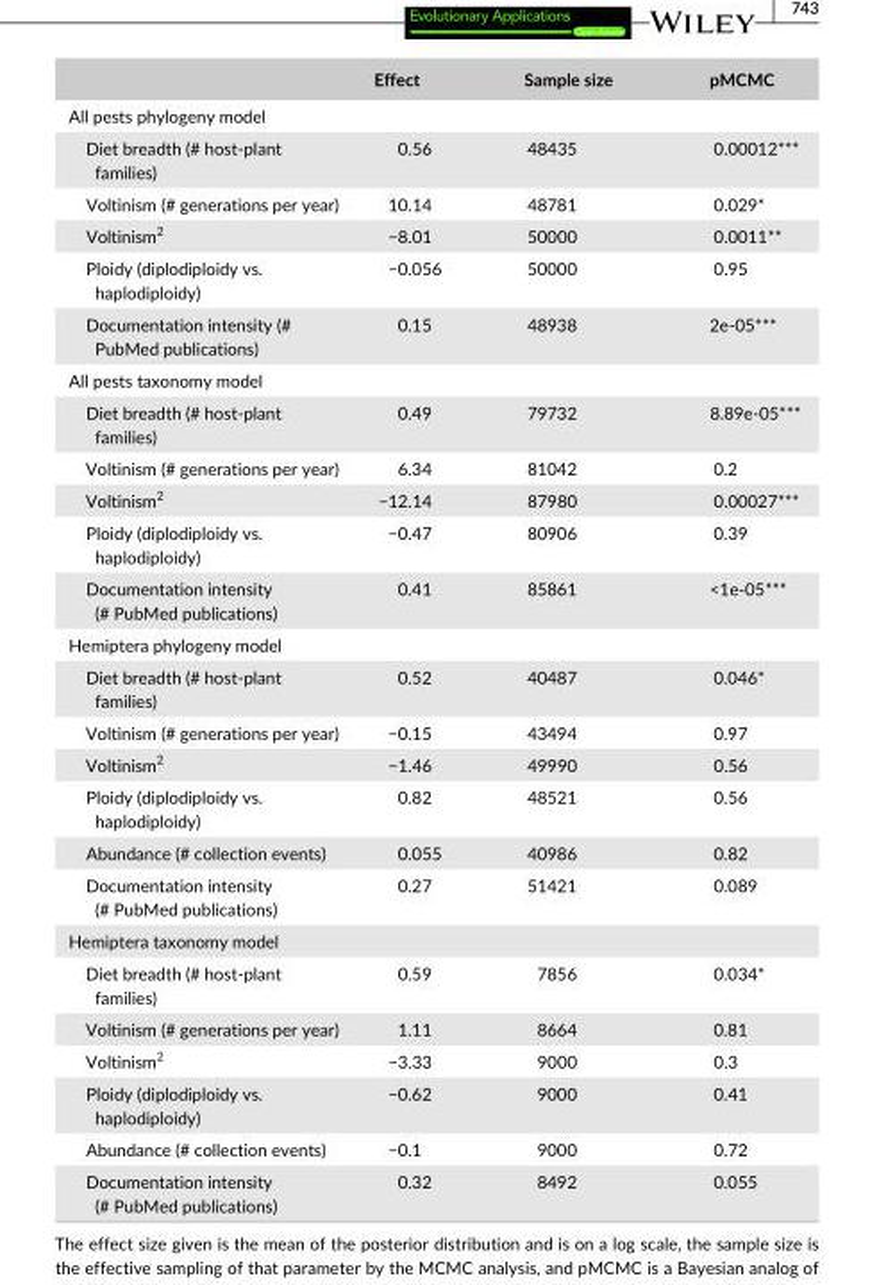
<table><thead><tr><td></td><td>Effect</td><td>Sample size</td><td>pMCMC</td></tr></thead><tbody><tr><td colspan="4">All pests phylogeny model</td></tr><tr><td>Diet breadth (# host- plant families)</td><td>0.56</td><td>48435</td><td>0.00012***</td></tr><tr><td>Voltinism (# generations per year)</td><td>10.14</td><td>48781</td><td>0.029*</td></tr><tr><td>Voltinism<sup>2</sup></td><td>−8.01</td><td>50000</td><td>0.0011**</td></tr><tr><td>Ploidy (diplodiploidy vs. haplodiploidy)</td><td>−0.056</td><td>50000</td><td>0.95</td></tr><tr><td>Documentation intensity (# PubMed publications)</td><td>0.15</td><td>48938</td><td>2e- 05***</td></tr><tr><td colspan="4">All pests taxonomy model</td></tr><tr><td>Diet breadth (# host- plant families)</td><td>0.49</td><td>79732</td><td>8.89e- 05***</td></tr><tr><td>Voltinism (# generations per year)</td><td>6.34</td><td>81042</td><td>0.2</td></tr><tr><td>Voltinism<sup>2</sup></td><td>−12.14</td><td>87980</td><td>0.00027***</td></tr><tr><td>Ploidy (diplodiploidy vs. haplodiploidy)</td><td>−0.47</td><td>80906</td><td>0.39</td></tr><tr><td>Documentation intensity (# PubMed publications)</td><td>0.41</td><td>85861</td><td>&lt;1e- 05***</td></tr><tr><td colspan="4">Hemiptera phylogeny model</td></tr><tr><td>Diet breadth (# host- plant families)</td><td>0.52</td><td>40487</td><td>0.046*</td></tr><tr><td>Voltinism (# generations per year)</td><td>−0.15</td><td>43494</td><td>0.97</td></tr><tr><td>Voltinism<sup>2</sup></td><td>−1.46</td><td>49990</td><td>0.56</td></tr><tr><td>Ploidy (diplodiploidy vs. haplodiploidy)</td><td>0.82</td><td>48521</td><td>0.56</td></tr><tr><td>Abundance (# collection events)</td><td>0.055</td><td>40986</td><td>0.82</td></tr><tr><td>Documentation intensity (# PubMed publications)</td><td>0.27</td><td>51421</td><td>0.089</td></tr><tr><td colspan="4">Hemiptera taxonomy model</td></tr><tr><td>Diet breadth (# host- plant families)</td><td>0.59</td><td>7856</td><td>0.034*</td></tr><tr><td>Voltinism (# generations per year)</td><td>1.11</td><td>8664</td><td>0.81</td></tr><tr><td>Voltinism<sup>2</sup></td><td>−3.33</td><td>9000</td><td>0.3</td></tr><tr><td>Ploidy (diplodiploidy vs. haplodiploidy)</td><td>−0.62</td><td>9000</td><td>0.41</td></tr><tr><td>Abundance (# collection events)</td><td>−0.1</td><td>9000</td><td>0.72</td></tr><tr><td>Documentation intensity (# PubMed publications)</td><td>0.32</td><td>8492</td><td>0.055</td></tr></tbody></table>